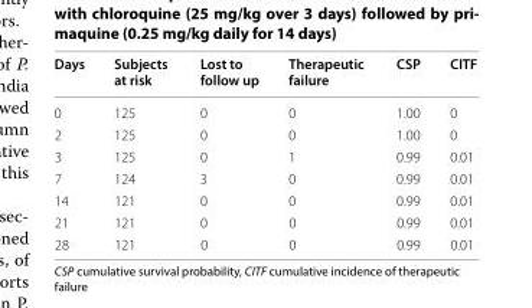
<table><thead><tr><td>Days</td><td>Subjects at risk</td><td>Lost to follow up</td><td>Therapeutic failure</td><td>CSP</td><td>CITF</td></tr></thead><tbody><tr><td>0</td><td>125</td><td>0</td><td>0</td><td>1.00</td><td>0</td></tr><tr><td>2</td><td>125</td><td>0</td><td>0</td><td>1.00</td><td>0</td></tr><tr><td>3</td><td>125</td><td>0</td><td>1</td><td>0.99</td><td>0.01</td></tr><tr><td>7</td><td>124</td><td>3</td><td>0</td><td>0.99</td><td>0.01</td></tr><tr><td>14</td><td>121</td><td>0</td><td>0</td><td>0.99</td><td>0.01</td></tr><tr><td>21</td><td>121</td><td>0</td><td>0</td><td>0.99</td><td>0.01</td></tr><tr><td>28</td><td>121</td><td>0</td><td>0</td><td>0.99</td><td>0.01</td></tr></tbody></table>